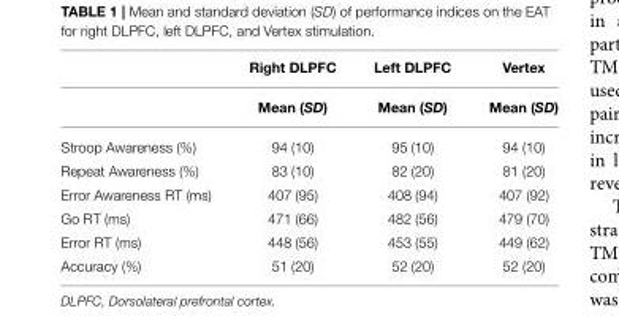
<table><thead><tr><td></td><td>Right DLPFC</td><td>Left DLPFC</td><td>Vertex</td></tr></thead><tbody><tr><td></td><td>Mean (SD)</td><td>Mean (SD)</td><td>Mean (SD)</td></tr><tr><td>Stroop Awareness (%)</td><td>94 (10)</td><td>95 (10)</td><td>94 (10)</td></tr><tr><td>Repeat Awareness (%)</td><td>83 (10)</td><td>82 (20)</td><td>81 (20)</td></tr><tr><td>Error Awareness RT (ms)</td><td>407 (95)</td><td>408 (94)</td><td>407 (92)</td></tr><tr><td>Go RT (ms)</td><td>471 (66)</td><td>482 (56)</td><td>479 (70)</td></tr><tr><td>Error RT (ms)</td><td>448 (56)</td><td>453 (55)</td><td>449 (62)</td></tr><tr><td>Accuracy (%)</td><td>51 (20)</td><td>52 (20)</td><td>52 (20)</td></tr></tbody></table>